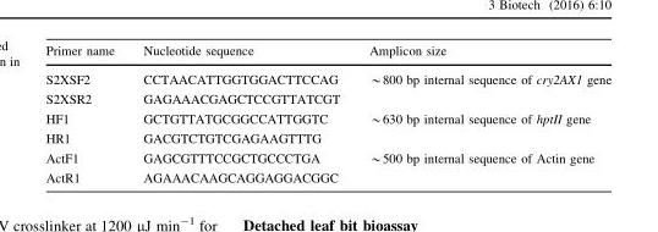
<table><thead><tr><td>Primer name</td><td>Nucleotide sequence</td><td>Amplicon size</td></tr></thead><tbody><tr><td>S2XSF2</td><td>CCTAACATTGGTGGACTTCCAG</td><td rowspan="2">*800 bp internal sequence of cry2AX1 gene</td></tr><tr><td>S2XSR2</td><td>GAGAAACGAGCTCCGTTATCGT</td></tr><tr><td>HF1</td><td>GCTGTTATGCGGCCATTGGTC</td><td rowspan="2">*630 bp internal sequence of hptII gene</td></tr><tr><td>HR1</td><td>GACGTCTGTCGAGAAGTTTG</td></tr><tr><td>ActF1</td><td>GAGCGTTTCCGCTGCCCTGA</td><td rowspan="2">*500 bp internal sequence of Actin gene</td></tr><tr><td>ActR1</td><td>AGAAACAAGCAGGAGGACGGC</td></tr></tbody></table>